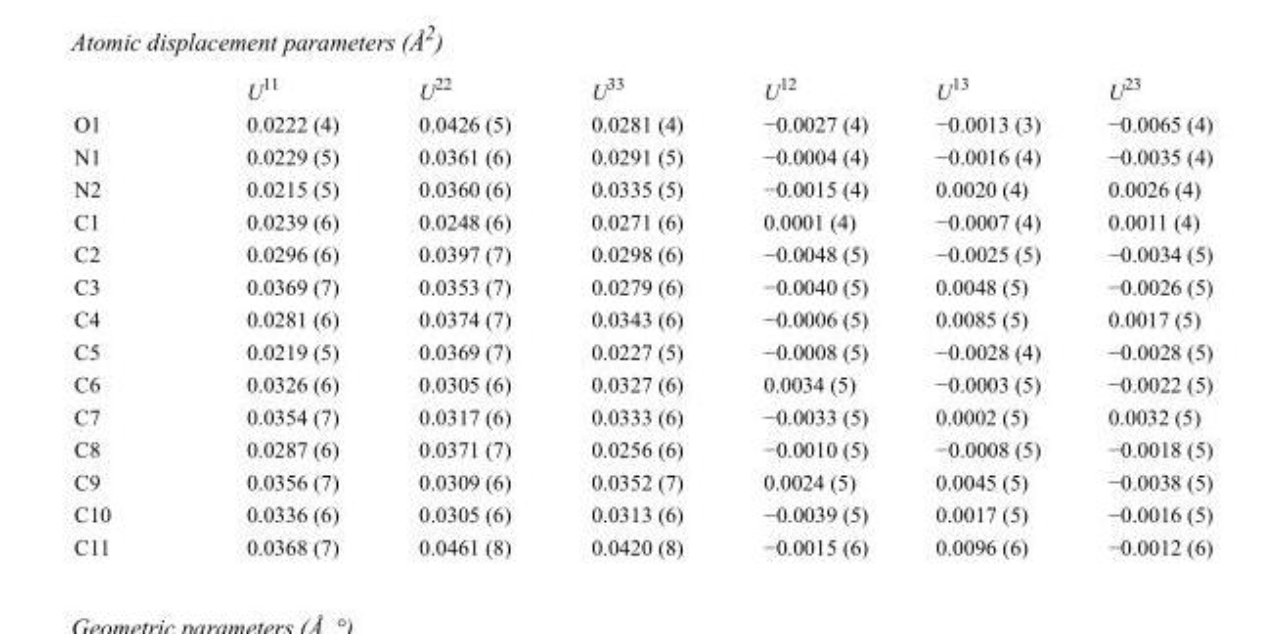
<table><thead><tr><td></td><td>U<sup>11</sup></td><td>U<sup>22</sup></td><td>U<sup>33</sup></td><td>U<sup>12</sup></td><td>U<sup>13</sup></td><td>U<sup>23</sup></td></tr></thead><tbody><tr><td>O1</td><td>0.0222 (4)</td><td>0.0426 (5)</td><td>0.0281 (4)</td><td>−0.0027 (4)</td><td>−0.0013 (3)</td><td>−0.0065 (4)</td></tr><tr><td>N1</td><td>0.0229 (5)</td><td>0.0361 (6)</td><td>0.0291 (5)</td><td>−0.0004 (4)</td><td>−0.0016 (4)</td><td>−0.0035 (4)</td></tr><tr><td>N2</td><td>0.0215 (5)</td><td>0.0360 (6)</td><td>0.0335 (5)</td><td>−0.0015 (4)</td><td>0.0020 (4)</td><td>0.0026 (4)</td></tr><tr><td>C1</td><td>0.0239 (6)</td><td>0.0248 (6)</td><td>0.0271 (6)</td><td>0.0001 (4)</td><td>−0.0007 (4)</td><td>0.0011 (4)</td></tr><tr><td>C2</td><td>0.0296 (6)</td><td>0.0397 (7)</td><td>0.0298 (6)</td><td>−0.0048 (5)</td><td>−0.0025 (5)</td><td>−0.0034 (5)</td></tr><tr><td>C3</td><td>0.0369 (7)</td><td>0.0353 (7)</td><td>0.0279 (6)</td><td>−0.0040 (5)</td><td>0.0048 (5)</td><td>−0.0026 (5)</td></tr><tr><td>C4</td><td>0.0281 (6)</td><td>0.0374 (7)</td><td>0.0343 (6)</td><td>−0.0006 (5)</td><td>0.0085 (5)</td><td>0.0017 (5)</td></tr><tr><td>C5</td><td>0.0219 (5)</td><td>0.0369 (7)</td><td>0.0227 (5)</td><td>−0.0008 (5)</td><td>−0.0028 (4)</td><td>−0.0028 (5)</td></tr><tr><td>C6</td><td>0.0326 (6)</td><td>0.0305 (6)</td><td>0.0327 (6)</td><td>0.0034 (5)</td><td>−0.0003 (5)</td><td>−0.0022 (5)</td></tr><tr><td>C7</td><td>0.0354 (7)</td><td>0.0317 (6)</td><td>0.0333 (6)</td><td>−0.0033 (5)</td><td>0.0002 (5)</td><td>0.0032 (5)</td></tr><tr><td>C8</td><td>0.0287 (6)</td><td>0.0371 (7)</td><td>0.0256 (6)</td><td>−0.0010 (5)</td><td>−0.0008 (5)</td><td>−0.0018 (5)</td></tr><tr><td>C9</td><td>0.0356 (7)</td><td>0.0309 (6)</td><td>0.0352 (7)</td><td>0.0024 (5)</td><td>0.0045 (5)</td><td>−0.0038 (5)</td></tr><tr><td>C10</td><td>0.0336 (6)</td><td>0.0305 (6)</td><td>0.0313 (6)</td><td>−0.0039 (5)</td><td>0.0017 (5)</td><td>−0.0016 (5)</td></tr><tr><td>C11</td><td>0.0368 (7)</td><td>0.0461 (8)</td><td>0.0420 (8)</td><td>−0.0015 (6)</td><td>0.0096 (6)</td><td>−0.0012 (6)</td></tr></tbody></table>